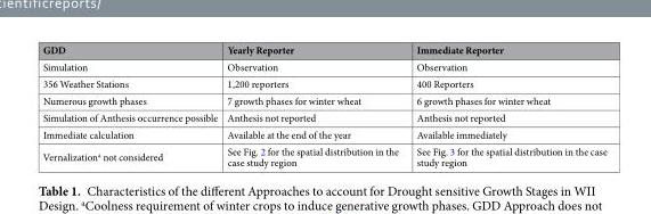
<table><thead><tr><td>GDD</td><td>Yearly Reporter</td><td>Immediate Reporter</td></tr></thead><tbody><tr><td>Simulation</td><td>Observation</td><td>Observation</td></tr><tr><td>356 Weather Stations</td><td>1,200 reporters</td><td>400 Reporters</td></tr><tr><td>Numerous growth phases</td><td>7 growth phases for winter wheat</td><td>6 growth phases for winter wheat</td></tr><tr><td>Simulation of Anthesis occurrence possible</td><td>Anthesis not reported</td><td>Anthesis not reported</td></tr><tr><td>Immediate calculation</td><td>Available at the end of the year</td><td>Available immediately</td></tr><tr><td>Vernalization<sup>a</sup> not considered</td><td>See Fig. 2 for the spatial distribution in the case study region</td><td>See Fig. 3 for the spatial distribution in the case study region</td></tr></tbody></table>